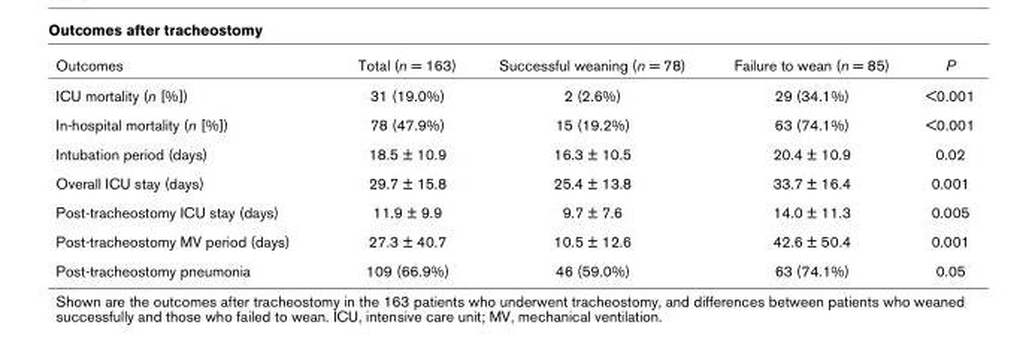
<table><thead><tr><td>Outcomes</td><td>Total (n = 163)</td><td>Successful weaning (n = 78)</td><td>Failure to wean (n = 85)</td><td>P</td></tr></thead><tbody><tr><td>ICU mortality (n [%])</td><td>31 (19.0%)</td><td>2 (2.6%)</td><td>29 (34.1%)</td><td>&lt;0.001</td></tr><tr><td>In-hospital mortality (n [%])</td><td>78 (47.9%)</td><td>15 (19.2%)</td><td>63 (74.1%)</td><td>&lt;0.001</td></tr><tr><td>Intubation period (days)</td><td>18.5 ± 10.9</td><td>16.3 ± 10.5</td><td>20.4 ± 10.9</td><td>0.02</td></tr><tr><td>Overall ICU stay (days)</td><td>29.7 ± 15.8</td><td>25.4 ± 13.8</td><td>33.7 ± 16.4</td><td>0.001</td></tr><tr><td>Post-tracheostomy ICU stay (days)</td><td>11.9 ± 9.9</td><td>9.7 ± 7.6</td><td>14.0 ± 11.3</td><td>0.005</td></tr><tr><td>Post-tracheostomy MV period (days)</td><td>27.3 ± 40.7</td><td>10.5 ± 12.6</td><td>42.6 ± 50.4</td><td>0.001</td></tr><tr><td>Post-tracheostomy pneumonia</td><td>109 (66.9%)</td><td>46 (59.0%)</td><td>63 (74.1%)</td><td>0.05</td></tr></tbody></table>